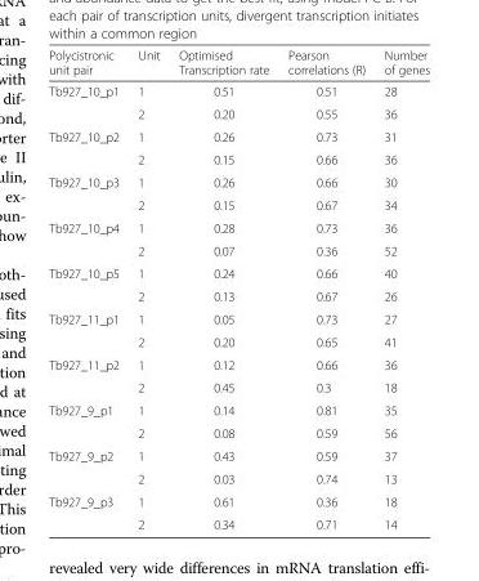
<table><thead><tr><td>Polycistronic unit pair</td><td>Unit</td><td>Optimised Transcription rate</td><td>Pearson correlations (R)</td><td>Number of genes</td></tr></thead><tbody><tr><td rowspan="2">Tb927_10_p1</td><td>1</td><td>0.51</td><td>0.51</td><td>28</td></tr><tr><td>2</td><td>0.20</td><td>0.55</td><td>36</td></tr><tr><td rowspan="2">Tb927_10_p2</td><td>1</td><td>0.26</td><td>0.73</td><td>31</td></tr><tr><td>2</td><td>0.15</td><td>0.66</td><td>36</td></tr><tr><td rowspan="2">Tb927_10_p3</td><td>1</td><td>0.26</td><td>0.66</td><td>30</td></tr><tr><td>2</td><td>0.15</td><td>0.67</td><td>34</td></tr><tr><td rowspan="2">Tb927_10_p4</td><td>1</td><td>0.28</td><td>0.73</td><td>36</td></tr><tr><td>2</td><td>0.07</td><td>0.36</td><td>52</td></tr><tr><td rowspan="2">Tb927_10_p5</td><td>1</td><td>0.24</td><td>0.66</td><td>40</td></tr><tr><td>2</td><td>0.13</td><td>0.67</td><td>26</td></tr><tr><td rowspan="2">Tb927_11_p1</td><td>1</td><td>0.05</td><td>0.73</td><td>27</td></tr><tr><td>2</td><td>0.20</td><td>0.65</td><td>41</td></tr><tr><td rowspan="2">Tb927_11_p2</td><td>1</td><td>0.12</td><td>0.66</td><td>36</td></tr><tr><td>2</td><td>0.45</td><td>0.3</td><td>18</td></tr><tr><td rowspan="2">Tb927_9_p1</td><td>1</td><td>0.14</td><td>0.81</td><td>35</td></tr><tr><td>2</td><td>0.08</td><td>0.59</td><td>56</td></tr><tr><td rowspan="2">Tb927_9_p2</td><td>1</td><td>0.43</td><td>0.59</td><td>37</td></tr><tr><td>2</td><td>0.03</td><td>0.74</td><td>13</td></tr><tr><td rowspan="2">Tb927_9_p3</td><td>1</td><td>0.61</td><td>0.36</td><td>18</td></tr><tr><td>2</td><td>0.34</td><td>0.71</td><td>14</td></tr></tbody></table>